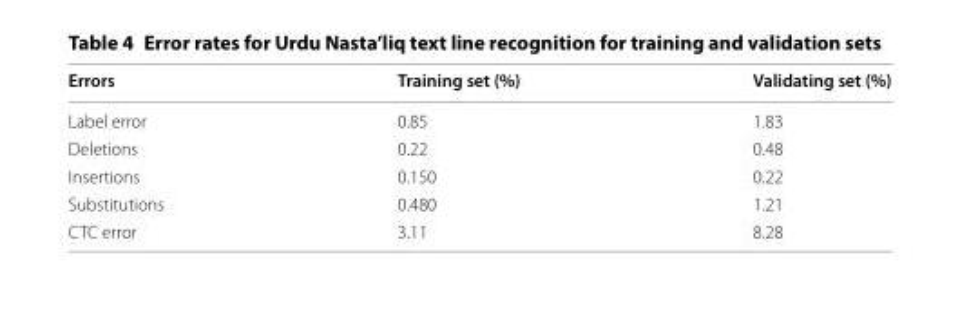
<table><thead><tr><td>Errors</td><td>Training set (%)</td><td>Validating set (%)</td></tr></thead><tbody><tr><td>Label error</td><td>0.85</td><td>1.83</td></tr><tr><td>Deletions</td><td>0.22</td><td>0.48</td></tr><tr><td>Insertions</td><td>0.150</td><td>0.22</td></tr><tr><td>Substitutions</td><td>0.480</td><td>1.21</td></tr><tr><td>CTC error</td><td>3.11</td><td>8.28</td></tr></tbody></table>